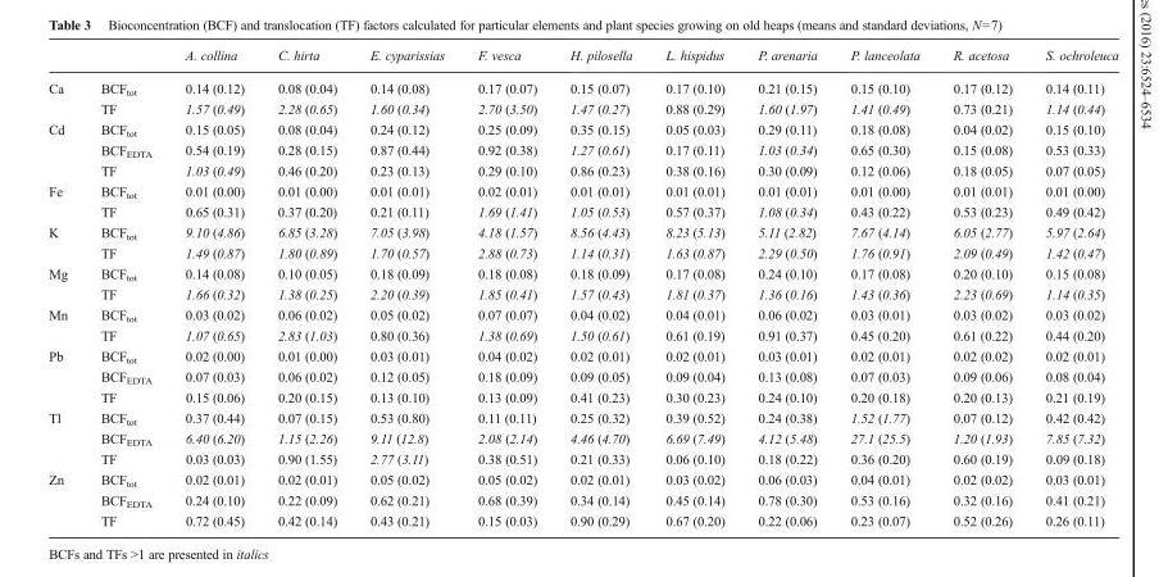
<table><thead><tr><td></td><td></td><td>A. collina</td><td>C. hirta</td><td>E. cyparissias</td><td>F. vesca</td><td>H. pilosella</td><td>L. hispidus</td><td>P. arenaria</td><td>P. lanceolata</td><td>R. acetosa</td><td>S. ochroleuca</td></tr></thead><tbody><tr><td rowspan="2">Ca</td><td>BCF<sub>tot</sub></td><td>0.14 (0.12)</td><td>0.08 (0.04)</td><td>0.14 (0.08)</td><td>0.17 (0.07)</td><td>0.15 (0.07)</td><td>0.17 (0.10)</td><td>0.21 (0.15)</td><td>0.15 (0.10)</td><td>0.17 (0.12)</td><td>0.14 (0.11)</td></tr><tr><td>TF</td><td>1.57 (0.49)</td><td>2.28 (0.65)</td><td>1.60 (0.34)</td><td>2.70 (3.50)</td><td>1.47 (0.27)</td><td>0.88 (0.29)</td><td>1.60 (1.97)</td><td>1.41 (0.49)</td><td>0.73 (0.21)</td><td>1.14 (0.44)</td></tr><tr><td rowspan="3">Cd</td><td>BCF<sub>tot</sub></td><td>0.15 (0.05)</td><td>0.08 (0.04)</td><td>0.24 (0.12)</td><td>0.25 (0.09)</td><td>0.35 (0.15)</td><td>0.05 (0.03)</td><td>0.29 (0.11)</td><td>0.18 (0.08)</td><td>0.04 (0.02)</td><td>0.15 (0.10)</td></tr><tr><td>BCF<sub>EDTA</sub></td><td>0.54 (0.19)</td><td>0.28 (0.15)</td><td>0.87 (0.44)</td><td>0.92 (0.38)</td><td>1.27 (0.61)</td><td>0.17 (0.11)</td><td>1.03 (0.34)</td><td>0.65 (0.30)</td><td>0.15 (0.08)</td><td>0.53 (0.33)</td></tr><tr><td>TF</td><td>1.03 (0.49)</td><td>0.46 (0.20)</td><td>0.23 (0.13)</td><td>0.29 (0.10)</td><td>0.86 (0.23)</td><td>0.38 (0.16)</td><td>0.30 (0.09)</td><td>0.12 (0.06)</td><td>0.18 (0.05)</td><td>0.07 (0.05)</td></tr><tr><td rowspan="2">Fe</td><td>BCF<sub>tot</sub></td><td>0.01 (0.00)</td><td>0.01 (0.00)</td><td>0.01 (0.01)</td><td>0.02 (0.01)</td><td>0.01 (0.01)</td><td>0.01 (0.01)</td><td>0.01 (0.01)</td><td>0.01 (0.00)</td><td>0.01 (0.01)</td><td>0.01 (0.00)</td></tr><tr><td>TF</td><td>0.65 (0.31)</td><td>0.37 (0.20)</td><td>0.21 (0.11)</td><td>1.69 (1.41)</td><td>1.05 (0.53)</td><td>0.57 (0.37)</td><td>1.08 (0.34)</td><td>0.43 (0.22)</td><td>0.53 (0.23)</td><td>0.49 (0.42)</td></tr><tr><td rowspan="2">K</td><td>BCF<sub>tot</sub></td><td>9.10 (4.86)</td><td>6.85 (3.28)</td><td>7.05 (3.98)</td><td>4.18 (1.57)</td><td>8.56 (4.43)</td><td>8.23 (5.13)</td><td>5.11 (2.82)</td><td>7.67 (4.14)</td><td>6.05 (2.77)</td><td>5.97 (2.64)</td></tr><tr><td>TF</td><td>1.49 (0.87)</td><td>1.80 (0.89)</td><td>1.70 (0.57)</td><td>2.88 (0.73)</td><td>1.14 (0.31)</td><td>1.63 (0.87)</td><td>2.29 (0.50)</td><td>1.76 (0.91)</td><td>2.09 (0.49)</td><td>1.42 (0.47)</td></tr><tr><td rowspan="2">Mg</td><td>BCF<sub>tot</sub></td><td>0.14 (0.08)</td><td>0.10 (0.05)</td><td>0.18 (0.09)</td><td>0.18 (0.08)</td><td>0.18 (0.09)</td><td>0.17 (0.08)</td><td>0.24 (0.10)</td><td>0.17 (0.08)</td><td>0.20 (0.10)</td><td>0.15 (0.08)</td></tr><tr><td>TF</td><td>1.66 (0.32)</td><td>1.38 (0.25)</td><td>2.20 (0.39)</td><td>1.85 (0.41)</td><td>1.57 (0.43)</td><td>1.81 (0.37)</td><td>1.36 (0.16)</td><td>1.43 (0.36)</td><td>2.23 (0.69)</td><td>1.14 (0.35)</td></tr><tr><td rowspan="2">Mn</td><td>BCF<sub>tot</sub></td><td>0.03 (0.02)</td><td>0.06 (0.02)</td><td>0.05 (0.02)</td><td>0.07 (0.07)</td><td>0.04 (0.02)</td><td>0.04 (0.01)</td><td>0.06 (0.02)</td><td>0.03 (0.01)</td><td>0.03 (0.02)</td><td>0.03 (0.02)</td></tr><tr><td>TF</td><td>1.07 (0.65)</td><td>2.83 (1.03)</td><td>0.80 (0.36)</td><td>1.38 (0.69)</td><td>1.50 (0.61)</td><td>0.61 (0.19)</td><td>0.91 (0.37)</td><td>0.45 (0.20)</td><td>0.61 (0.22)</td><td>0.44 (0.20)</td></tr><tr><td rowspan="3">Pb</td><td>BCF<sub>tot</sub></td><td>0.02 (0.00)</td><td>0.01 (0.00)</td><td>0.03 (0.01)</td><td>0.04 (0.02)</td><td>0.02 (0.01)</td><td>0.02 (0.01)</td><td>0.03 (0.01)</td><td>0.02 (0.01)</td><td>0.02 (0.02)</td><td>0.02 (0.01)</td></tr><tr><td>BCF<sub>EDTA</sub></td><td>0.07 (0.03)</td><td>0.06 (0.02)</td><td>0.12 (0.05)</td><td>0.18 (0.09)</td><td>0.09 (0.05)</td><td>0.09 (0.04)</td><td>0.13 (0.08)</td><td>0.07 (0.03)</td><td>0.09 (0.06)</td><td>0.08 (0.04)</td></tr><tr><td>TF</td><td>0.15 (0.06)</td><td>0.20 (0.15)</td><td>0.13 (0.10)</td><td>0.13 (0.09)</td><td>0.41 (0.23)</td><td>0.30 (0.23)</td><td>0.24 (0.10)</td><td>0.20 (0.18)</td><td>0.20 (0.13)</td><td>0.21 (0.19)</td></tr><tr><td rowspan="3">Tl</td><td>BCF<sub>tot</sub></td><td>0.37 (0.44)</td><td>0.07 (0.15)</td><td>0.53 (0.80)</td><td>0.11 (0.11)</td><td>0.25 (0.32)</td><td>0.39 (0.52)</td><td>0.24 (0.38)</td><td>1.52 (1.77)</td><td>0.07 (0.12)</td><td>0.42 (0.42)</td></tr><tr><td>BCF<sub>EDTA</sub></td><td>6.40 (6.20)</td><td>1.15 (2.26)</td><td>9.11 (12.8)</td><td>2.08 (2.14)</td><td>4.46 (4.70)</td><td>6.69 (7.49)</td><td>4.12 (5.48)</td><td>27.1 (25.5)</td><td>1.20 (1.93)</td><td>7.85 (7.32)</td></tr><tr><td>TF</td><td>0.03 (0.03)</td><td>0.90 (1.55)</td><td>2.77 (3.11)</td><td>0.38 (0.51)</td><td>0.21 (0.33)</td><td>0.06 (0.10)</td><td>0.18 (0.22)</td><td>0.36 (0.20)</td><td>0.60 (0.19)</td><td>0.09 (0.18)</td></tr><tr><td rowspan="3">Zn</td><td>BCF<sub>tot</sub></td><td>0.02 (0.01)</td><td>0.02 (0.01)</td><td>0.05 (0.02)</td><td>0.05 (0.02)</td><td>0.02 (0.01)</td><td>0.03 (0.02)</td><td>0.06 (0.03)</td><td>0.04 (0.01)</td><td>0.02 (0.02)</td><td>0.03 (0.01)</td></tr><tr><td>BCF<sub>EDTA</sub></td><td>0.24 (0.10)</td><td>0.22 (0.09)</td><td>0.62 (0.21)</td><td>0.68 (0.39)</td><td>0.34 (0.14)</td><td>0.45 (0.14)</td><td>0.78 (0.30)</td><td>0.53 (0.16)</td><td>0.32 (0.16)</td><td>0.41 (0.21)</td></tr><tr><td>TF</td><td>0.72 (0.45)</td><td>0.42 (0.14)</td><td>0.43 (0.21)</td><td>0.15 (0.03)</td><td>0.90 (0.29)</td><td>0.67 (0.20)</td><td>0.22 (0.06)</td><td>0.23 (0.07)</td><td>0.52 (0.26)</td><td>0.26 (0.11)</td></tr></tbody></table>